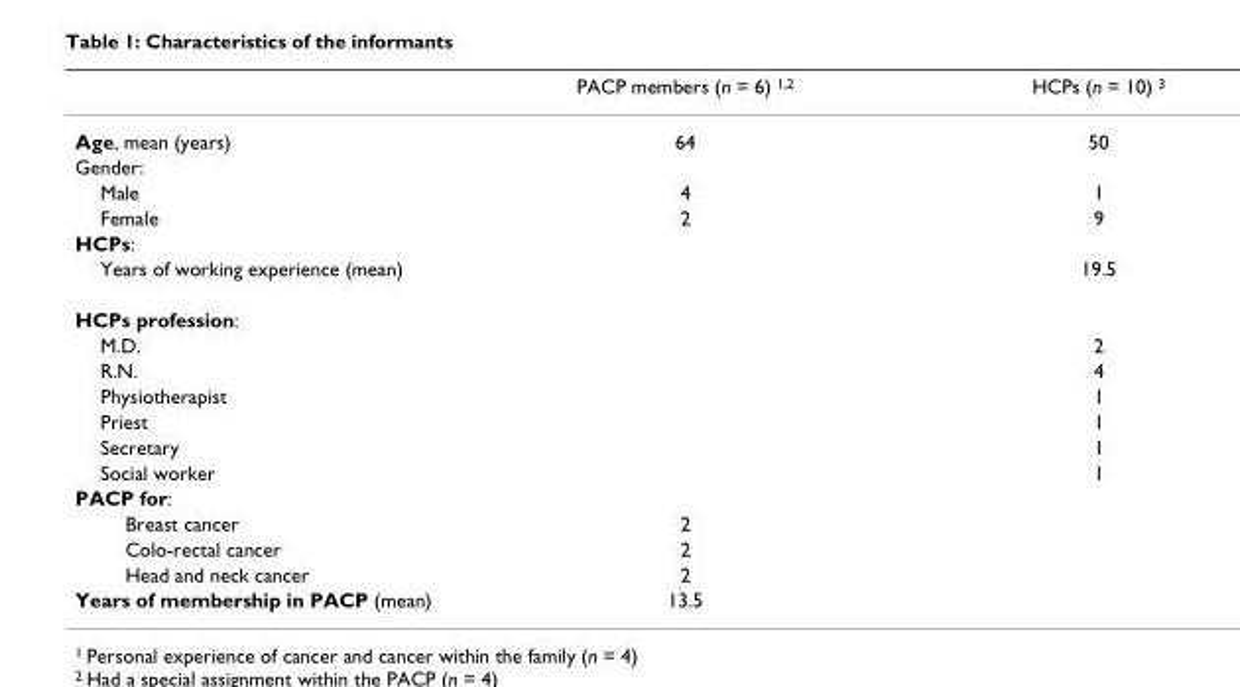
<table><thead><tr><td></td><td>PACP members (n = 6) <sup>1,2</sup></td><td>HCPs (n = 10) <sup>3</sup></td></tr></thead><tbody><tr><td>Age, mean (years)</td><td>64</td><td>50</td></tr><tr><td colspan="3">Gender:</td></tr><tr><td>Male</td><td>4</td><td>1</td></tr><tr><td>Female</td><td>2</td><td>9</td></tr><tr><td colspan="3">HCPs:</td></tr><tr><td>Years of working experience (mean)</td><td></td><td>19.5</td></tr><tr><td colspan="3">HCPs profession:</td></tr><tr><td>M.D.</td><td></td><td>2</td></tr><tr><td>R.N.</td><td></td><td>4</td></tr><tr><td>Physiotherapist</td><td></td><td>1</td></tr><tr><td>Priest</td><td></td><td>1</td></tr><tr><td>Secretary</td><td></td><td>1</td></tr><tr><td>Social worker</td><td></td><td>1</td></tr><tr><td colspan="3">PACP for:</td></tr><tr><td>Breast cancer</td><td>2</td><td></td></tr><tr><td>Colo-rectal cancer</td><td>2</td><td></td></tr><tr><td>Head and neck cancer</td><td>2</td><td></td></tr><tr><td>Years of membership in PACP (mean)</td><td>13.5</td><td></td></tr></tbody></table>